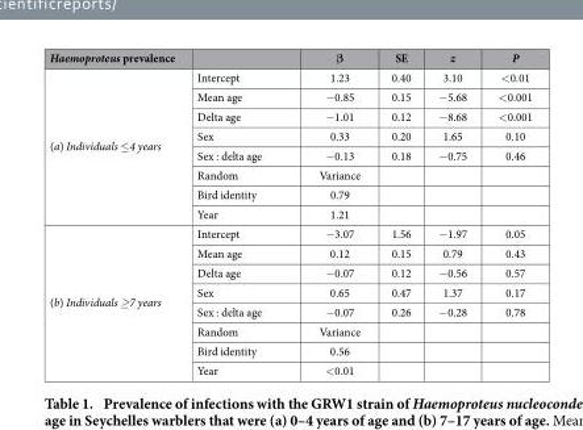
<table><thead><tr><td>Haemoproteus prevalence</td><td></td><td>β</td><td>SE</td><td>z</td><td>P</td></tr></thead><tbody><tr><td rowspan="8">(a) Individuals ≤ 4 years</td><td>Intercept</td><td>1.23</td><td>0.40</td><td>3.10</td><td>&lt; 0.01</td></tr><tr><td>Mean age</td><td>− 0.85</td><td>0.15</td><td>− 5.68</td><td>&lt; 0.001</td></tr><tr><td>Delta age</td><td>− 1.01</td><td>0.12</td><td>− 8.68</td><td>&lt; 0.001</td></tr><tr><td>Sex</td><td>0.33</td><td>0.20</td><td>1.65</td><td>0.10</td></tr><tr><td>Sex : delta age</td><td>− 0.13</td><td>0.18</td><td>− 0.75</td><td>0.46</td></tr><tr><td>Random</td><td>Variance</td><td></td><td></td><td></td></tr><tr><td>Bird identity</td><td>0.79</td><td></td><td></td><td></td></tr><tr><td>Year</td><td>1.21</td><td></td><td></td><td></td></tr><tr><td rowspan="8">(b) Individuals ≥7 years</td><td>Intercept</td><td>− 3.07</td><td>1.56</td><td>− 1.97</td><td>0.05</td></tr><tr><td>Mean age</td><td>0.12</td><td>0.15</td><td>0.79</td><td>0.43</td></tr><tr><td>Delta age</td><td>− 0.07</td><td>0.12</td><td>− 0.56</td><td>0.57</td></tr><tr><td>Sex</td><td>0.65</td><td>0.47</td><td>1.37</td><td>0.17</td></tr><tr><td>Sex : delta age</td><td>− 0.07</td><td>0.26</td><td>− 0.28</td><td>0.78</td></tr><tr><td>Random</td><td>Variance</td><td></td><td></td><td></td></tr><tr><td>Bird identity</td><td>0.56</td><td></td><td></td><td></td></tr><tr><td>Year</td><td>&lt; 0.01</td><td></td><td></td><td></td></tr></tbody></table>